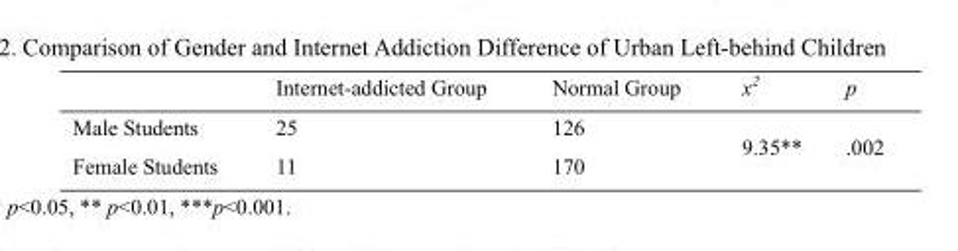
<table><thead><tr><td></td><td>Internet-addicted Group</td><td>Normal Group</td><td>x<sup>2</sup></td><td>p</td></tr></thead><tbody><tr><td>Male Students</td><td>25</td><td>126</td><td rowspan="2">9.35**</td><td rowspan="2">.002</td></tr><tr><td>Female Students</td><td>11</td><td>170</td></tr></tbody></table>